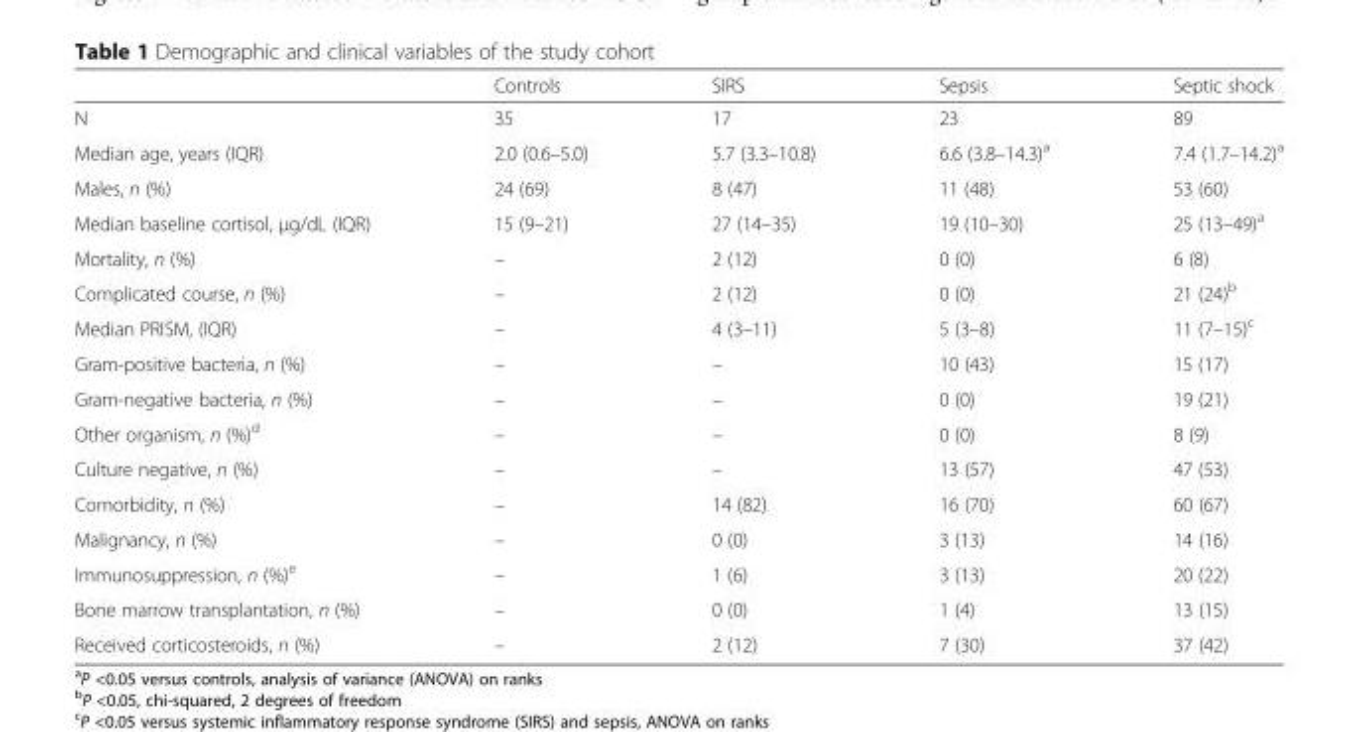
<table><thead><tr><td></td><td>Controls</td><td>SIRS</td><td>Sepsis</td><td>Septic shock</td></tr></thead><tbody><tr><td>N</td><td>35</td><td>17</td><td>23</td><td>89</td></tr><tr><td>Median age, years (IQR)</td><td>2.0 (0.6–5.0)</td><td>5.7 (3.3–10.8)</td><td>6.6 (3.8–14.3)<sup>a</sup></td><td>7.4 (1.7–14.2)<sup>a</sup></td></tr><tr><td>Males, n (%)</td><td>24 (69)</td><td>8 (47)</td><td>11 (48)</td><td>53 (60)</td></tr><tr><td>Median baseline cortisol, μg/dL (IQR)</td><td>15 (9–21)</td><td>27 (14–35)</td><td>19 (10–30)</td><td>25 (13–49)<sup>a</sup></td></tr><tr><td>Mortality, n (%)</td><td>–</td><td>2 (12)</td><td>0 (0)</td><td>6 (8)</td></tr><tr><td>Complicated course, n (%)</td><td>–</td><td>2 (12)</td><td>0 (0)</td><td>21 (24)<sup>b</sup></td></tr><tr><td>Median PRISM, (IQR)</td><td>–</td><td>4 (3–11)</td><td>5 (3–8)</td><td>11 (7–15)<sup>c</sup></td></tr><tr><td>Gram-positive bacteria, n (%)</td><td>–</td><td>–</td><td>10 (43)</td><td>15 (17)</td></tr><tr><td>Gram-negative bacteria, n (%)</td><td>–</td><td>–</td><td>0 (0)</td><td>19 (21)</td></tr><tr><td>Other organism, n (%)<sup>d</sup></td><td>–</td><td>–</td><td>0 (0)</td><td>8 (9)</td></tr><tr><td>Culture negative, n (%)</td><td>–</td><td>–</td><td>13 (57)</td><td>47 (53)</td></tr><tr><td>Comorbidity, n (%)</td><td>–</td><td>14 (82)</td><td>16 (70)</td><td>60 (67)</td></tr><tr><td>Malignancy, n (%)</td><td>–</td><td>0 (0)</td><td>3 (13)</td><td>14 (16)</td></tr><tr><td>Immunosuppression, n (%)<sup>e</sup></td><td>–</td><td>1 (6)</td><td>3 (13)</td><td>20 (22)</td></tr><tr><td>Bone marrow transplantation, n (%)</td><td>–</td><td>0 (0)</td><td>1 (4)</td><td>13 (15)</td></tr><tr><td>Received corticosteroids, n (%)</td><td>–</td><td>2 (12)</td><td>7 (30)</td><td>37 (42)</td></tr></tbody></table>